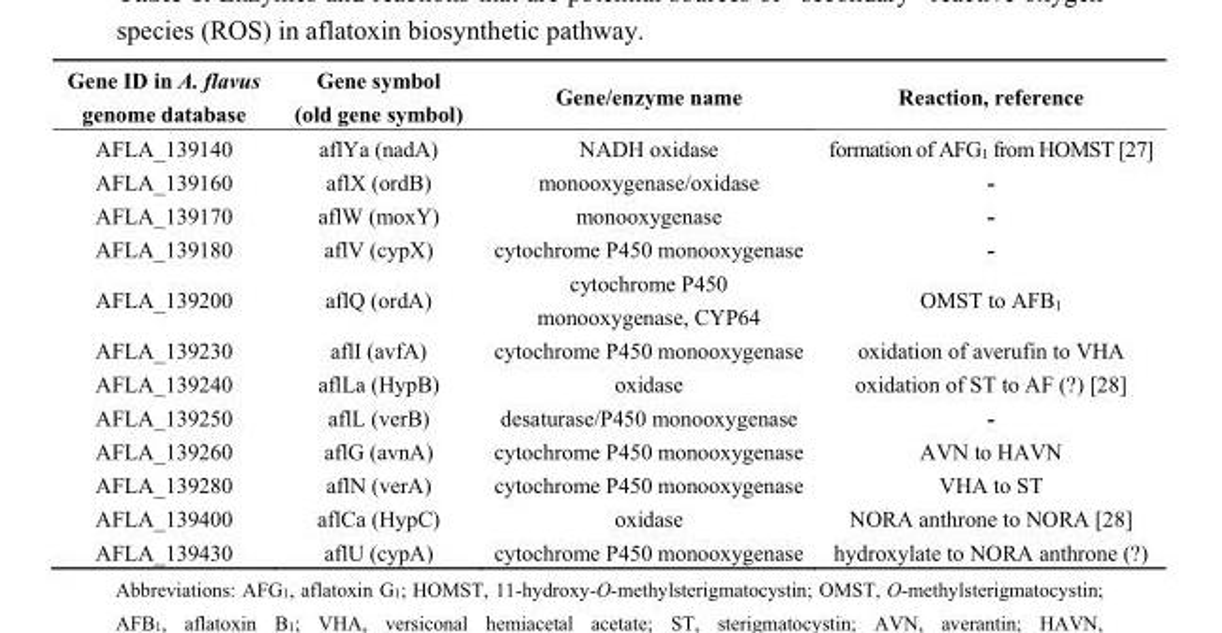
<table><thead><tr><td>Gene ID in A. flavus genome database</td><td>Gene symbol (old gene symbol)</td><td>Gene/enzyme name</td><td>Reaction, reference</td></tr></thead><tbody><tr><td>AFLA_139140</td><td>aflYa (nadA)</td><td>NADH oxidase</td><td>formation of AFG<sub>1</sub> from HOMST [27]</td></tr><tr><td>AFLA_139160</td><td>aflX (ordB)</td><td>monooxygenase/oxidase</td><td>-</td></tr><tr><td>AFLA_139170</td><td>aflW (moxY)</td><td>monooxygenase</td><td>-</td></tr><tr><td>AFLA_139180</td><td>aflV (cypX)</td><td>cytochrome P450 monooxygenase</td><td>-</td></tr><tr><td>AFLA_139200</td><td>aflQ (ordA)</td><td>cytochrome P450 monooxygenase, CYP64</td><td>OMST to AFB<sub>1</sub></td></tr><tr><td>AFLA_139230</td><td>aflI (avfA)</td><td>cytochrome P450 monooxygenase</td><td>oxidation of averufin to VHA</td></tr><tr><td>AFLA_139240</td><td>aflLa (HypB)</td><td>oxidase</td><td>oxidation of ST to AF (?) [28]</td></tr><tr><td>AFLA_139250</td><td>aflL (verB)</td><td>desaturase/P450 monooxygenase</td><td>-</td></tr><tr><td>AFLA_139260</td><td>aflG (avnA)</td><td>cytochrome P450 monooxygenase</td><td>AVN to HAVN</td></tr><tr><td>AFLA_139280</td><td>aflN (verA)</td><td>cytochrome P450 monooxygenase</td><td>VHA to ST</td></tr><tr><td>AFLA_139400</td><td>aflCa (HypC)</td><td>oxidase</td><td>NORA anthrone to NORA [28]</td></tr><tr><td>AFLA_139430</td><td>aflU (cypA)</td><td>cytochrome P450 monooxygenase</td><td>hydroxylate to NORA anthrone (?)</td></tr></tbody></table>